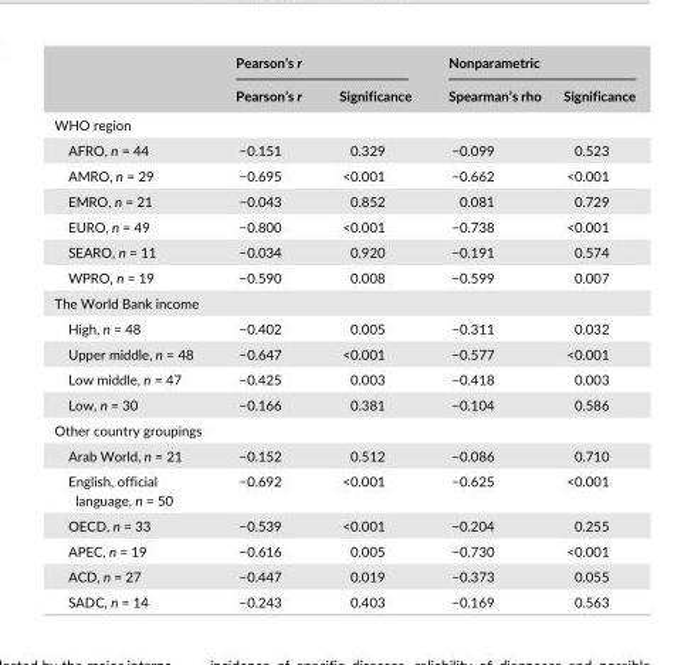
<table><thead><tr><td rowspan="2"></td><td colspan="2">Pearson’s r</td><td colspan="2">Nonparametric</td></tr><tr><td>Pearson’s r</td><td>Significance</td><td>Spearman’s rho</td><td>Significance</td></tr></thead><tbody><tr><td colspan="5">WHO region</td></tr><tr><td>AFRO, n = 44</td><td>−0.151</td><td>0.329</td><td>−0.099</td><td>0.523</td></tr><tr><td>AMRO, n = 29</td><td>−0.695</td><td>&lt;0.001</td><td>−0.662</td><td>&lt;0.001</td></tr><tr><td>EMRO, n = 21</td><td>−0.043</td><td>0.852</td><td>0.081</td><td>0.729</td></tr><tr><td>EURO, n = 49</td><td>−0.800</td><td>&lt;0.001</td><td>−0.738</td><td>&lt;0.001</td></tr><tr><td>SEARO, n = 11</td><td>−0.034</td><td>0.920</td><td>−0.191</td><td>0.574</td></tr><tr><td>WPRO, n = 19</td><td>−0.590</td><td>0.008</td><td>−0.599</td><td>0.007</td></tr><tr><td colspan="5">The World Bank income</td></tr><tr><td>High, n = 48</td><td>−0.402</td><td>0.005</td><td>−0.311</td><td>0.032</td></tr><tr><td>Upper middle, n = 48</td><td>−0.647</td><td>&lt;0.001</td><td>−0.577</td><td>&lt;0.001</td></tr><tr><td>Low middle, n = 47</td><td>−0.425</td><td>0.003</td><td>−0.418</td><td>0.003</td></tr><tr><td>Low, n = 30</td><td>−0.166</td><td>0.381</td><td>−0.104</td><td>0.586</td></tr><tr><td colspan="5">Other country groupings</td></tr><tr><td>Arab World, n = 21</td><td>−0.152</td><td>0.512</td><td>−0.086</td><td>0.710</td></tr><tr><td>English, official language, n = 50</td><td>−0.692</td><td>&lt;0.001</td><td>−0.625</td><td>&lt;0.001</td></tr><tr><td>OECD, n = 33</td><td>−0.539</td><td>&lt;0.001</td><td>−0.204</td><td>0.255</td></tr><tr><td>APEC, n = 19</td><td>−0.616</td><td>0.005</td><td>−0.730</td><td>&lt;0.001</td></tr><tr><td>ACD, n = 27</td><td>−0.447</td><td>0.019</td><td>−0.373</td><td>0.055</td></tr><tr><td>SADC, n = 14</td><td>−0.243</td><td>0.403</td><td>−0.169</td><td>0.563</td></tr></tbody></table>